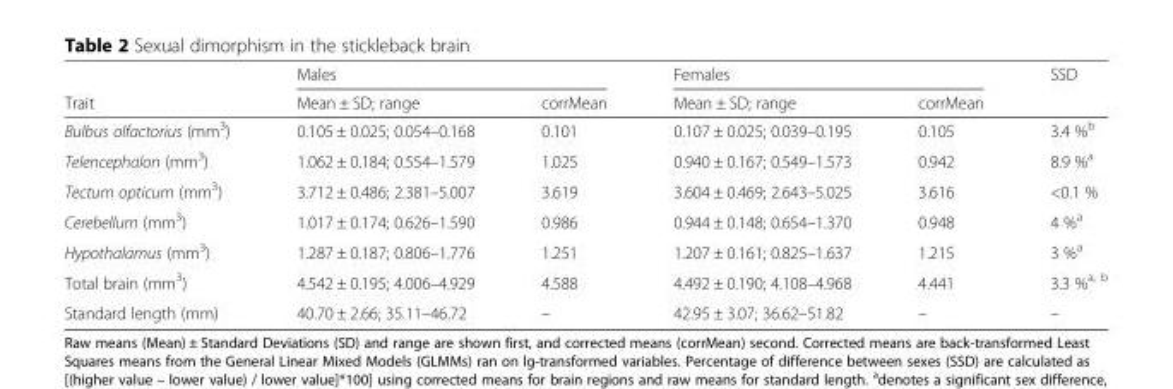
<table><thead><tr><td rowspan="2">Trait</td><td colspan="2">Males</td><td colspan="2">Females</td><td rowspan="2">SSD</td></tr><tr><td>Mean ± SD; range</td><td>corrMean</td><td>Mean ± SD; range</td><td>corrMean</td></tr></thead><tbody><tr><td>Bulbus olfactorius (mm<sup>3</sup>)</td><td>0.105 ± 0.025; 0.054–0.168</td><td>0.101</td><td>0.107 ± 0.025; 0.039–0.195</td><td>0.105</td><td>3.4 %<sup>b</sup></td></tr><tr><td>Telencephalon (mm<sup>3</sup>)</td><td>1.062 ± 0.184; 0.554–1.579</td><td>1.025</td><td>0.940 ± 0.167; 0.549–1.573</td><td>0.942</td><td>8.9 %<sup>a</sup></td></tr><tr><td>Tectum opticum (mm<sup>3</sup>)</td><td>3.712 ± 0.486; 2.381–5.007</td><td>3.619</td><td>3.604 ± 0.469; 2.643–5.025</td><td>3.616</td><td>&lt;0.1 %</td></tr><tr><td>Cerebellum (mm<sup>3</sup>)</td><td>1.017 ± 0.174; 0.626–1.590</td><td>0.986</td><td>0.944 ± 0.148; 0.654–1.370</td><td>0.948</td><td>4 %<sup>a</sup></td></tr><tr><td>Hypothalamus (mm<sup>3</sup>)</td><td>1.287 ± 0.187; 0.806–1.776</td><td>1.251</td><td>1.207 ± 0.161; 0.825–1.637</td><td>1.215</td><td>3 %<sup>a</sup></td></tr><tr><td>Total brain (mm<sup>3</sup>)</td><td>4.542 ± 0.195; 4.006–4.929</td><td>4.588</td><td>4.492 ± 0.190; 4.108–4.968</td><td>4.441</td><td>3.3 %<sup>a, b</sup></td></tr><tr><td>Standard length (mm)</td><td>40.70 ± 2.66; 35.11–46.72</td><td>–</td><td>42.95 ± 3.07; 36.62–51.82</td><td>–</td><td>–</td></tr></tbody></table>